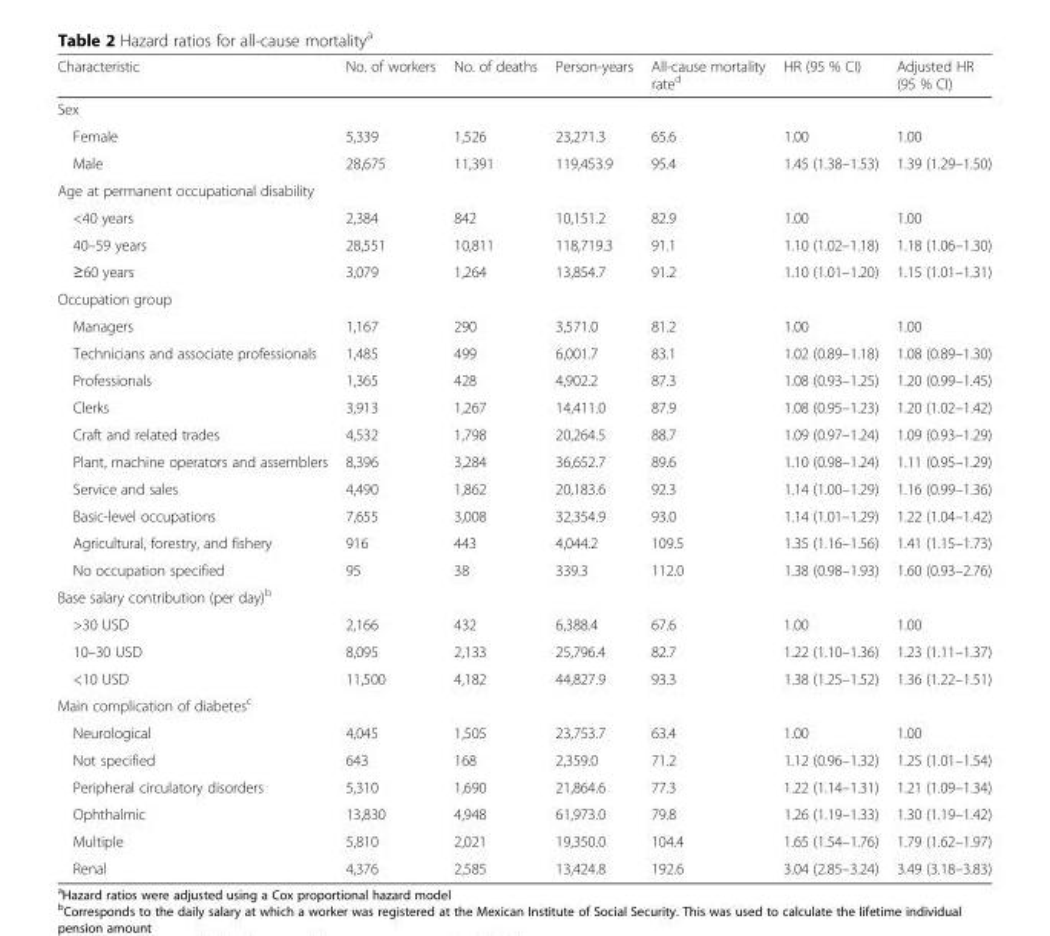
<table><thead><tr><td>Characteristic</td><td>No. of workers</td><td>No. of deaths</td><td>Person-years</td><td>All-cause mortality rate<sup>d</sup></td><td>HR (95 % CI)</td><td>Adjusted HR (95 % CI)</td></tr></thead><tbody><tr><td colspan="7">Sex</td></tr><tr><td>Female</td><td>5,339</td><td>1,526</td><td>23,271.3</td><td>65.6</td><td>1.00</td><td>1.00</td></tr><tr><td>Male</td><td>28,675</td><td>11,391</td><td>119,453.9</td><td>95.4</td><td>1.45 (1.38–1.53)</td><td>1.39 (1.29–1.50)</td></tr><tr><td colspan="7">Age at permanent occupational disability</td></tr><tr><td>&lt;40 years</td><td>2,384</td><td>842</td><td>10,151.2</td><td>82.9</td><td>1.00</td><td>1.00</td></tr><tr><td>40–59 years</td><td>28,551</td><td>10,811</td><td>118,719.3</td><td>91.1</td><td>1.10 (1.02–1.18)</td><td>1.18 (1.06–1.30)</td></tr><tr><td>≥60 years</td><td>3,079</td><td>1,264</td><td>13,854.7</td><td>91.2</td><td>1.10 (1.01–1.20)</td><td>1.15 (1.01–1.31)</td></tr><tr><td colspan="7">Occupation group</td></tr><tr><td>Managers</td><td>1,167</td><td>290</td><td>3,571.0</td><td>81.2</td><td>1.00</td><td>1.00</td></tr><tr><td>Technicians and associate professionals</td><td>1,485</td><td>499</td><td>6,001.7</td><td>83.1</td><td>1.02 (0.89–1.18)</td><td>1.08 (0.89–1.30)</td></tr><tr><td>Professionals</td><td>1,365</td><td>428</td><td>4,902.2</td><td>87.3</td><td>1.08 (0.93–1.25)</td><td>1.20 (0.99–1.45)</td></tr><tr><td>Clerks</td><td>3,913</td><td>1,267</td><td>14,411.0</td><td>87.9</td><td>1.08 (0.95–1.23)</td><td>1.20 (1.02–1.42)</td></tr><tr><td>Craft and related trades</td><td>4,532</td><td>1,798</td><td>20,264.5</td><td>88.7</td><td>1.09 (0.97–1.24)</td><td>1.09 (0.93–1.29)</td></tr><tr><td>Plant, machine operators and assemblers</td><td>8,396</td><td>3,284</td><td>36,652.7</td><td>89.6</td><td>1.10 (0.98–1.24)</td><td>1.11 (0.95–1.29)</td></tr><tr><td>Service and sales</td><td>4,490</td><td>1,862</td><td>20,183.6</td><td>92.3</td><td>1.14 (1.00–1.29)</td><td>1.16 (0.99–1.36)</td></tr><tr><td>Basic-level occupations</td><td>7,655</td><td>3,008</td><td>32,354.9</td><td>93.0</td><td>1.14 (1.01–1.29)</td><td>1.22 (1.04–1.42)</td></tr><tr><td>Agricultural, forestry, and fishery</td><td>916</td><td>443</td><td>4,044.2</td><td>109.5</td><td>1.35 (1.16–1.56)</td><td>1.41 (1.15–1.73)</td></tr><tr><td>No occupation specified</td><td>95</td><td>38</td><td>339.3</td><td>112.0</td><td>1.38 (0.98–1.93)</td><td>1.60 (0.93–2.76)</td></tr><tr><td colspan="7">Base salary contribution (per day)<sup>b</sup></td></tr><tr><td>&gt;30 USD</td><td>2,166</td><td>432</td><td>6,388.4</td><td>67.6</td><td>1.00</td><td>1.00</td></tr><tr><td>10–30 USD</td><td>8,095</td><td>2,133</td><td>25,796.4</td><td>82.7</td><td>1.22 (1.10–1.36)</td><td>1.23 (1.11–1.37)</td></tr><tr><td>&lt;10 USD</td><td>11,500</td><td>4,182</td><td>44,827.9</td><td>93.3</td><td>1.38 (1.25–1.52)</td><td>1.36 (1.22–1.51)</td></tr><tr><td colspan="7">Main complication of diabetes<sup>c</sup></td></tr><tr><td>Neurological</td><td>4,045</td><td>1,505</td><td>23,753.7</td><td>63.4</td><td>1.00</td><td>1.00</td></tr><tr><td>Not specified</td><td>643</td><td>168</td><td>2,359.0</td><td>71.2</td><td>1.12 (0.96–1.32)</td><td>1.25 (1.01–1.54)</td></tr><tr><td>Peripheral circulatory disorders</td><td>5,310</td><td>1,690</td><td>21,864.6</td><td>77.3</td><td>1.22 (1.14–1.31)</td><td>1.21 (1.09–1.34)</td></tr><tr><td>Ophthalmic</td><td>13,830</td><td>4,948</td><td>61,973.0</td><td>79.8</td><td>1.26 (1.19–1.33)</td><td>1.30 (1.19–1.42)</td></tr><tr><td>Multiple</td><td>5,810</td><td>2,021</td><td>19,350.0</td><td>104.4</td><td>1.65 (1.54–1.76)</td><td>1.79 (1.62–1.97)</td></tr><tr><td>Renal</td><td>4,376</td><td>2,585</td><td>13,424.8</td><td>192.6</td><td>3.04 (2.85–3.24)</td><td>3.49 (3.18–3.83)</td></tr></tbody></table>